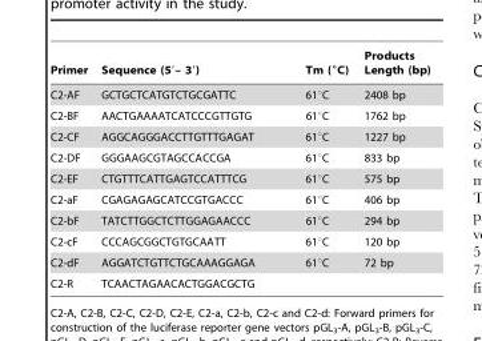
<table><thead><tr><td>Primer</td><td>Sequence (5′– 3′)</td><td>Tm (°C)</td><td>Products Length (bp)</td></tr></thead><tbody><tr><td>C2-AF</td><td>GCTGCTCATGTCTGCGATTC</td><td>61°C</td><td>2408 bp</td></tr><tr><td>C2-BF</td><td>AACTGAAAATCATCCCGTTGTG</td><td>61°C</td><td>1762 bp</td></tr><tr><td>C2-CF</td><td>AGGCAGGGACCTTGTTTGAGAT</td><td>61°C</td><td>1227 bp</td></tr><tr><td>C2-DF</td><td>GGGAAGCGTAGCCACCGA</td><td>61°C</td><td>833 bp</td></tr><tr><td>C2-EF</td><td>CTGTTTCATTGAGTCCATTTCG</td><td>61°C</td><td>575 bp</td></tr><tr><td>C2-aF</td><td>CGAGAGAGCATCCGTGACCC</td><td>61°C</td><td>406 bp</td></tr><tr><td>C2-bF</td><td>TATCTTGGCTCTTGGAGAACCC</td><td>61°C</td><td>294 bp</td></tr><tr><td>C2-cF</td><td>CCCAGCGGCTGTGCAATT</td><td>61°C</td><td>120 bp</td></tr><tr><td>C2-dF</td><td>AGGATCTGTTCTGCAAAGGAGA</td><td>61°C</td><td>72 bp</td></tr><tr><td>C2-R</td><td>TCAACTAGAACACTGGACGCTG</td><td></td><td></td></tr></tbody></table>